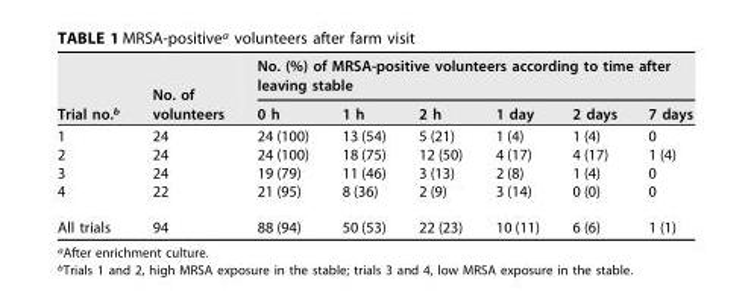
<table><thead><tr><td rowspan="2">Trial no.<sup>b</sup></td><td rowspan="2">No. of volunteers</td><td colspan="6">No. (%) of MRSA-positive volunteers according to time after leaving stable</td></tr><tr><td>0 h</td><td>1 h</td><td>2 h</td><td>1 day</td><td>2 days</td><td>7 days</td></tr></thead><tbody><tr><td>1</td><td>24</td><td>24 (100)</td><td>13 (54)</td><td>5 (21)</td><td>1 (4)</td><td>1 (4)</td><td>0</td></tr><tr><td>2</td><td>24</td><td>24 (100)</td><td>18 (75)</td><td>12 (50)</td><td>4 (17)</td><td>4 (17)</td><td>1 (4)</td></tr><tr><td>3</td><td>24</td><td>19 (79)</td><td>11 (46)</td><td>3 (13)</td><td>2 (8)</td><td>1 (4)</td><td>0</td></tr><tr><td>4</td><td>22</td><td>21 (95)</td><td>8 (36)</td><td>2 (9)</td><td>3 (14)</td><td>0 (0)</td><td>0</td></tr><tr><td>All trials</td><td>94</td><td>88 (94)</td><td>50 (53)</td><td>22 (23)</td><td>10 (11)</td><td>6 (6)</td><td>1 (1)</td></tr></tbody></table>